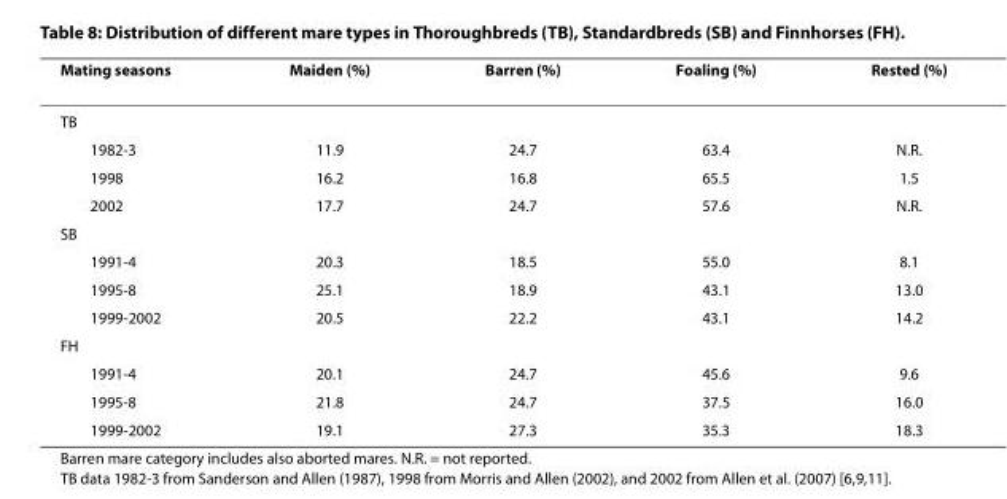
<table><thead><tr><td>Mating seasons</td><td>Maiden (%)</td><td>Barren (%)</td><td>Foaling (%)</td><td>Rested (%)</td></tr></thead><tbody><tr><td colspan="5">TB</td></tr><tr><td>1982-3</td><td>11.9</td><td>24.7</td><td>63.4</td><td>N.R.</td></tr><tr><td>1998</td><td>16.2</td><td>16.8</td><td>65.5</td><td>1.5</td></tr><tr><td>2002</td><td>17.7</td><td>24.7</td><td>57.6</td><td>N.R.</td></tr><tr><td colspan="5">SB</td></tr><tr><td>1991-4</td><td>20.3</td><td>18.5</td><td>55.0</td><td>8.1</td></tr><tr><td>1995-8</td><td>25.1</td><td>18.9</td><td>43.1</td><td>13.0</td></tr><tr><td>1999-2002</td><td>20.5</td><td>22.2</td><td>43.1</td><td>14.2</td></tr><tr><td colspan="5">FH</td></tr><tr><td>1991-4</td><td>20.1</td><td>24.7</td><td>45.6</td><td>9.6</td></tr><tr><td>1995-8</td><td>21.8</td><td>24.7</td><td>37.5</td><td>16.0</td></tr><tr><td>1999-2002</td><td>19.1</td><td>27.3</td><td>35.3</td><td>18.3</td></tr></tbody></table>